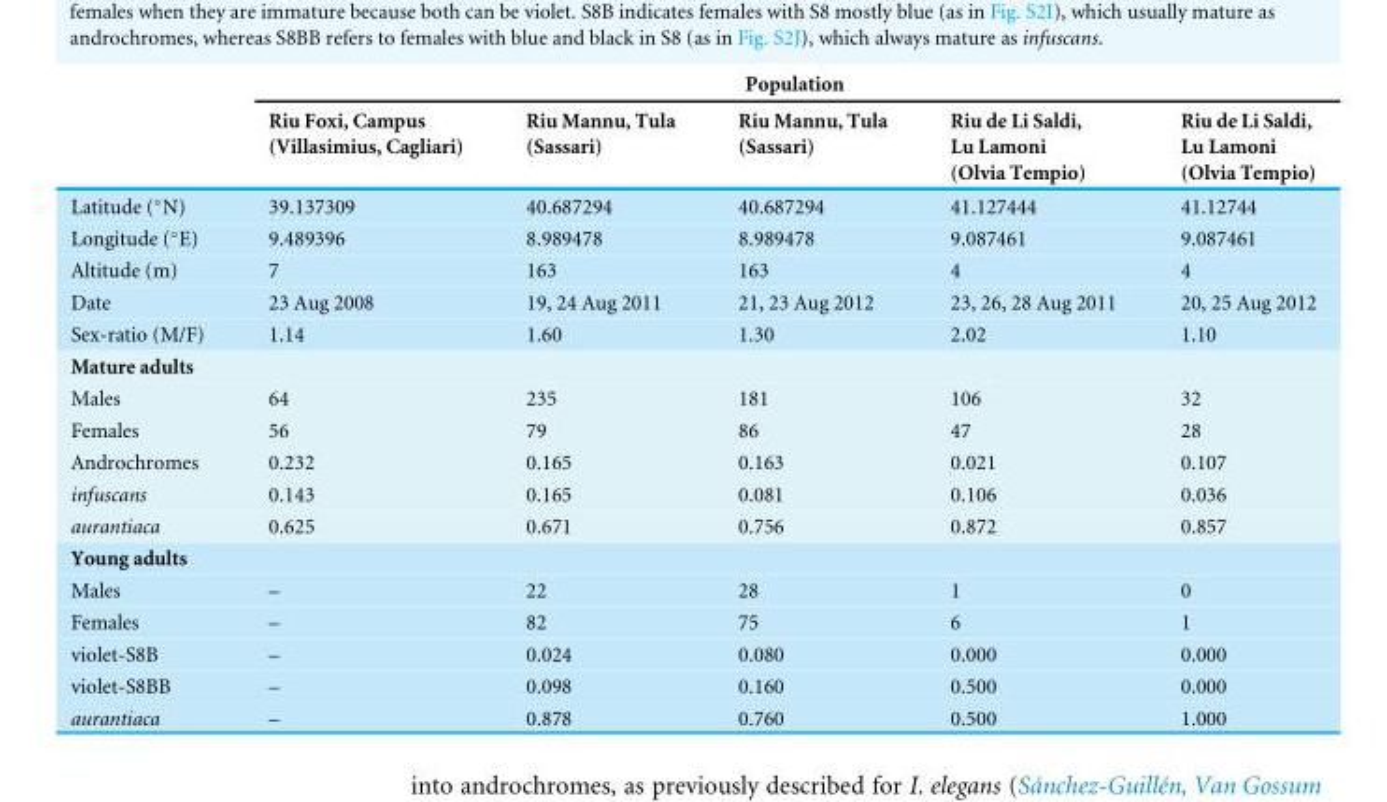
<table><thead><tr><td rowspan="2"></td><td colspan="5">Population</td></tr><tr><td>Riu Foxi, Campus (Villasimius, Cagliari)</td><td>Riu Mannu, Tula (Sassari)</td><td>Riu Mannu, Tula (Sassari)</td><td>Riu de Li Saldi, Lu Lamoni (Olvia Tempio)</td><td>Riu de Li Saldi, Lu Lamoni (Olvia Tempio)</td></tr></thead><tbody><tr><td>Latitude (◦N)</td><td>39.137309</td><td>40.687294</td><td>40.687294</td><td>41.127444</td><td>41.12744</td></tr><tr><td>Longitude (◦E)</td><td>9.489396</td><td>8.989478</td><td>8.989478</td><td>9.087461</td><td>9.087461</td></tr><tr><td>Altitude (m)</td><td>7</td><td>163</td><td>163</td><td>4</td><td>4</td></tr><tr><td>Date</td><td>23 Aug 2008</td><td>19, 24 Aug 2011</td><td>21, 23 Aug 2012</td><td>23, 26, 28 Aug 2011</td><td>20, 25 Aug 2012</td></tr><tr><td>Sex-ratio (M/F)</td><td>1.14</td><td>1.60</td><td>1.30</td><td>2.02</td><td>1.10</td></tr><tr><td colspan="6">Mature adults</td></tr><tr><td>Males</td><td>64</td><td>235</td><td>181</td><td>106</td><td>32</td></tr><tr><td>Females</td><td>56</td><td>79</td><td>86</td><td>47</td><td>28</td></tr><tr><td>Androchromes</td><td>0.232</td><td>0.165</td><td>0.163</td><td>0.021</td><td>0.107</td></tr><tr><td>infuscans</td><td>0.143</td><td>0.165</td><td>0.081</td><td>0.106</td><td>0.036</td></tr><tr><td>aurantiaca</td><td>0.625</td><td>0.671</td><td>0.756</td><td>0.872</td><td>0.857</td></tr><tr><td colspan="6">Young adults</td></tr><tr><td>Males</td><td>–</td><td>22</td><td>28</td><td>1</td><td>0</td></tr><tr><td>Females</td><td>–</td><td>82</td><td>75</td><td>6</td><td>1</td></tr><tr><td>violet-S8B</td><td>–</td><td>0.024</td><td>0.080</td><td>0.000</td><td>0.000</td></tr><tr><td>violet-S8BB</td><td>–</td><td>0.098</td><td>0.160</td><td>0.500</td><td>0.000</td></tr><tr><td>aurantiaca</td><td>–</td><td>0.878</td><td>0.760</td><td>0.500</td><td>1.000</td></tr></tbody></table>